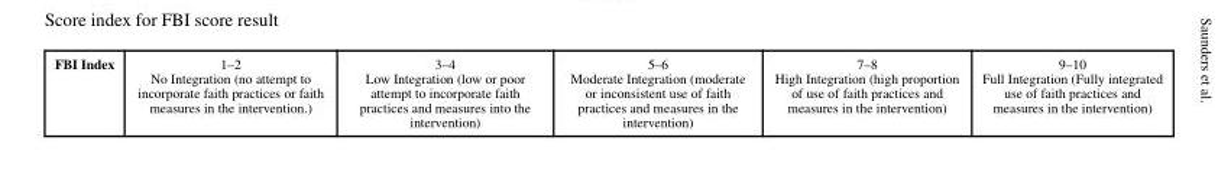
<table><tbody><tr><td>FBI Index</td><td>1–2 No Integration (no attempt to incorporate faith practices or faith measures in the intervention.)</td><td>3–4 Low Integration (low or poor attempt to incorporate faith practices and measures into the intervention)</td><td>5–6 Moderate Integration (moderate or inconsistent use of faith practices and measures in the intervention)</td><td>7–8 High Integration (high proportion of use of faith practices and measures in the intervention)</td><td>9–10 Full Integration (Fully integrated use of faith practices and measures in the intervention)</td></tr></tbody></table>